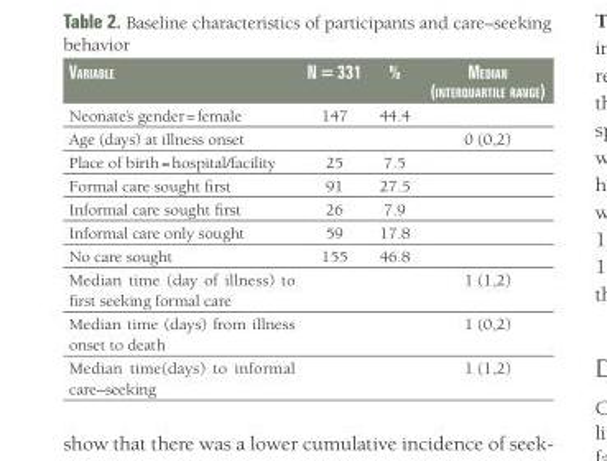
<table><thead><tr><td>Variable</td><td>N = 331</td><td>%</td><td>MediaN (iNterquartile raNge)</td></tr></thead><tbody><tr><td>Neonate’s gender = female</td><td>147</td><td>44.4</td><td></td></tr><tr><td>Age (days) at illness onset</td><td></td><td></td><td>0 (0,2)</td></tr><tr><td>Place of birth = hospital/facility</td><td>25</td><td>7.5</td><td></td></tr><tr><td>Formal care sought first</td><td>91</td><td>27.5</td><td></td></tr><tr><td>Informal care sought first</td><td>26</td><td>7.9</td><td></td></tr><tr><td>Informal care only sought</td><td>59</td><td>17.8</td><td></td></tr><tr><td>No care sought</td><td>155</td><td>46.8</td><td></td></tr><tr><td>Median time (day of illness) to first seeking formal care</td><td></td><td></td><td>1 (1,2)</td></tr><tr><td>Median time (days) from illness onset to death</td><td></td><td></td><td>1 (0,2)</td></tr><tr><td>Median time(days) to informal care–seeking</td><td></td><td></td><td>1 (1,2)</td></tr></tbody></table>